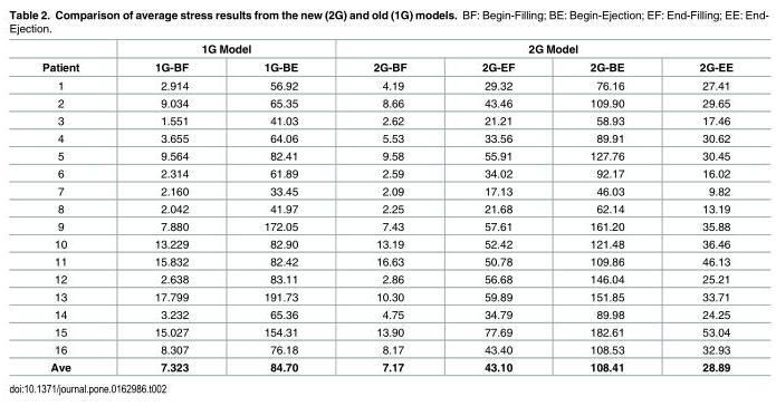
<table><thead><tr><td rowspan="2">Patient</td><td colspan="2">1G Model</td><td colspan="4">2G Model</td></tr><tr><td>1G-BF</td><td>1G-BE</td><td>2G-BF</td><td>2G-EF</td><td>2G-BE</td><td>2G-EE</td></tr></thead><tbody><tr><td>1</td><td>2.914</td><td>56.92</td><td>4.19</td><td>29.32</td><td>76.16</td><td>27.41</td></tr><tr><td>2</td><td>9.034</td><td>65.35</td><td>8.66</td><td>43.46</td><td>109.90</td><td>29.65</td></tr><tr><td>3</td><td>1.551</td><td>41.03</td><td>2.62</td><td>21.21</td><td>58.93</td><td>17.46</td></tr><tr><td>4</td><td>3.655</td><td>64.06</td><td>5.53</td><td>33.56</td><td>89.91</td><td>30.62</td></tr><tr><td>5</td><td>9.564</td><td>82.41</td><td>9.58</td><td>55.91</td><td>127.76</td><td>30.45</td></tr><tr><td>6</td><td>2.314</td><td>61.89</td><td>2.59</td><td>34.02</td><td>92.17</td><td>16.02</td></tr><tr><td>7</td><td>2.160</td><td>33.45</td><td>2.09</td><td>17.13</td><td>46.03</td><td>9.82</td></tr><tr><td>8</td><td>2.042</td><td>41.97</td><td>2.25</td><td>21.68</td><td>62.14</td><td>13.19</td></tr><tr><td>9</td><td>7.880</td><td>172.05</td><td>7.43</td><td>57.61</td><td>161.20</td><td>35.88</td></tr><tr><td>10</td><td>13.229</td><td>82.90</td><td>13.19</td><td>52.42</td><td>121.48</td><td>36.46</td></tr><tr><td>11</td><td>15.832</td><td>82.42</td><td>16.63</td><td>50.78</td><td>109.86</td><td>46.13</td></tr><tr><td>12</td><td>2.638</td><td>83.11</td><td>2.86</td><td>56.68</td><td>146.04</td><td>25.21</td></tr><tr><td>13</td><td>17.799</td><td>191.73</td><td>10.30</td><td>59.89</td><td>151.85</td><td>33.71</td></tr><tr><td>14</td><td>3.232</td><td>65.36</td><td>4.75</td><td>34.79</td><td>89.98</td><td>24.25</td></tr><tr><td>15</td><td>15.027</td><td>154.31</td><td>13.90</td><td>77.69</td><td>182.61</td><td>53.04</td></tr><tr><td>16</td><td>8.307</td><td>76.18</td><td>8.17</td><td>43.40</td><td>108.53</td><td>32.93</td></tr><tr><td>Ave</td><td>7.323</td><td>84.70</td><td>7.17</td><td>43.10</td><td>108.41</td><td>28.89</td></tr></tbody></table>